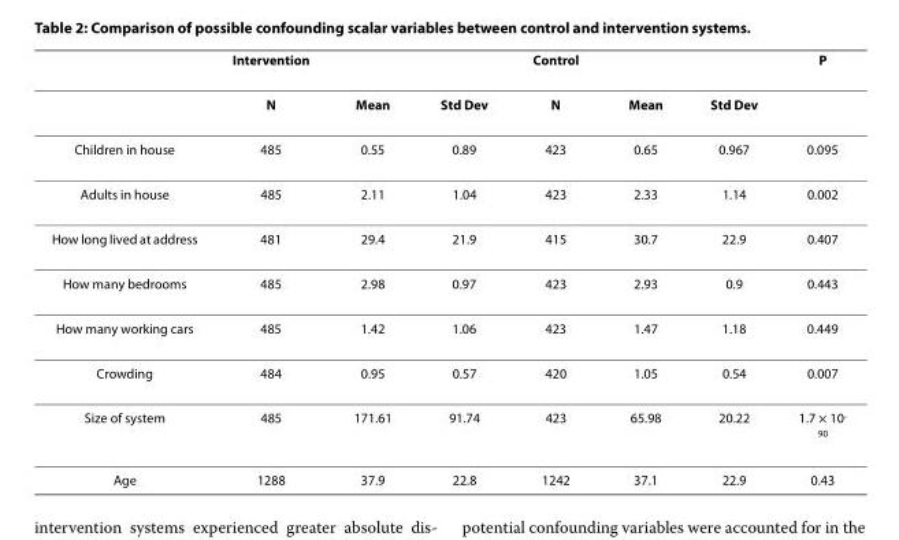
<table><thead><tr><td></td><td>Intervention</td><td></td><td></td><td>Control</td><td></td><td></td><td>P</td></tr></thead><tbody><tr><td></td><td>N</td><td>Mean</td><td>Std Dev</td><td>N</td><td>Mean</td><td>Std Dev</td><td></td></tr><tr><td>Children in house</td><td>485</td><td>0.55</td><td>0.89</td><td>423</td><td>0.65</td><td>0.967</td><td>0.095</td></tr><tr><td>Adults in house</td><td>485</td><td>2.11</td><td>1.04</td><td>423</td><td>2.33</td><td>1.14</td><td>0.002</td></tr><tr><td>How long lived at address</td><td>481</td><td>29.4</td><td>21.9</td><td>415</td><td>30.7</td><td>22.9</td><td>0.407</td></tr><tr><td>How many bedrooms</td><td>485</td><td>2.98</td><td>0.97</td><td>423</td><td>2.93</td><td>0.9</td><td>0.443</td></tr><tr><td>How many working cars</td><td>485</td><td>1.42</td><td>1.06</td><td>423</td><td>1.47</td><td>1.18</td><td>0.449</td></tr><tr><td>Crowding</td><td>484</td><td>0.95</td><td>0.57</td><td>420</td><td>1.05</td><td>0.54</td><td>0.007</td></tr><tr><td>Size of system</td><td>485</td><td>171.61</td><td>91.74</td><td>423</td><td>65.98</td><td>20.22</td><td>1.7 × 10<sup>- 90</sup></td></tr><tr><td>Age</td><td>1288</td><td>37.9</td><td>22.8</td><td>1242</td><td>37.1</td><td>22.9</td><td>0.43</td></tr></tbody></table>